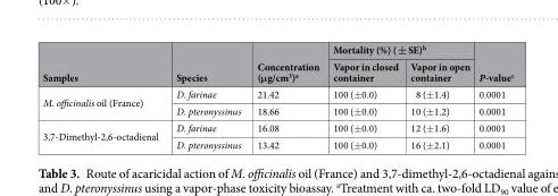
<table><thead><tr><td rowspan="2">Samples</td><td rowspan="2">Species</td><td rowspan="2">Concentration (μg/cm<sup>3</sup>)<sup>a</sup></td><td colspan="2">Mortality (%) ( ± SE)<sup>b</sup></td><td rowspan="2">P-value<sup>c</sup></td></tr><tr><td>Vapor in closed container</td><td>Vapor in open container</td></tr></thead><tbody><tr><td rowspan="2">M. officinalis oil (France)</td><td>D. farinae</td><td>21.42</td><td>100 (±0.0)</td><td>8 (±1.4)</td><td>0.0001</td></tr><tr><td>D. pteronyssinus</td><td>18.66</td><td>100 (±0.0)</td><td>10 (±1.2)</td><td>0.0001</td></tr><tr><td rowspan="2">3,7-Dimethyl-2,6-octadienal</td><td>D. farinae</td><td>16.08</td><td>100 (±0.0)</td><td>12 (±1.6)</td><td>0.0001</td></tr><tr><td>D. pteronyssinus</td><td>13.42</td><td>100 (±0.0)</td><td>16 (±2.1)</td><td>0.0001</td></tr></tbody></table>